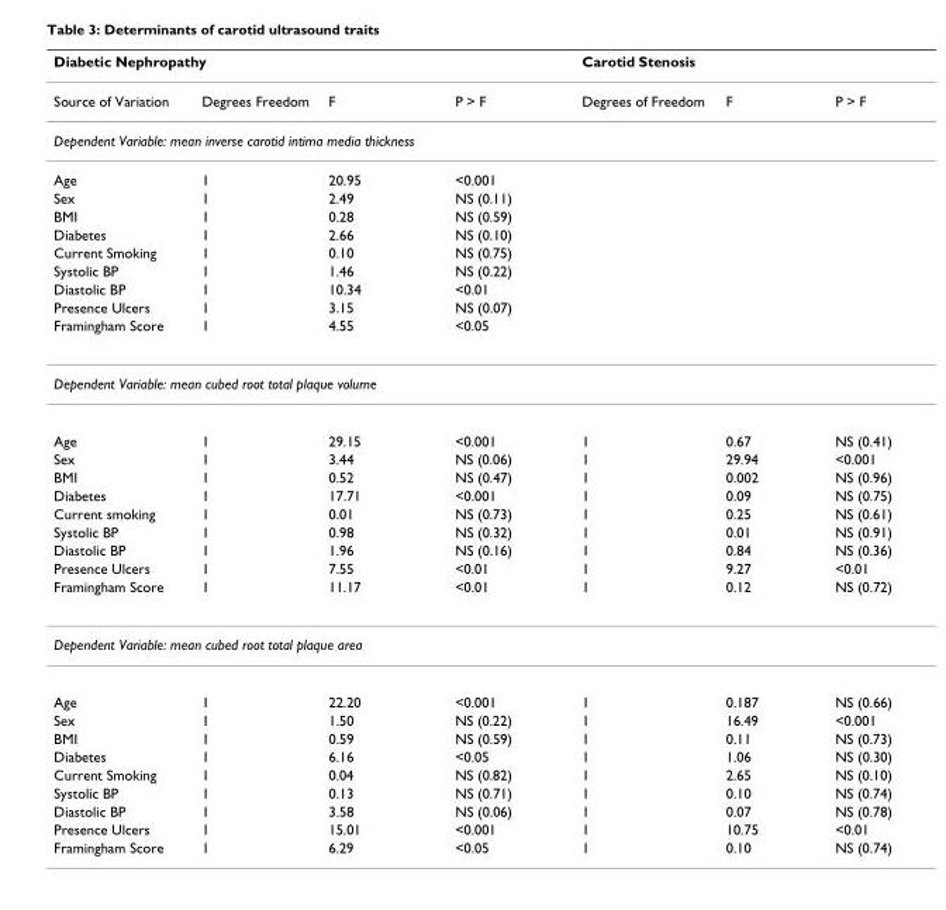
<table><thead><tr><td colspan="4">Diabetic Nephropathy</td><td rowspan="2">Carotid Stenosis Degrees of Freedom</td><td rowspan="2">F</td><td rowspan="2">P &gt; F</td></tr><tr><td>Source of Variation</td><td>Degrees Freedom</td><td>F</td><td>P &gt; F</td></tr></thead><tbody><tr><td colspan="7">Dependent Variable: mean inverse carotid intima media thickness</td></tr><tr><td>Age</td><td>1</td><td>20.95</td><td>&lt;0.001</td><td></td><td></td><td></td></tr><tr><td>Sex</td><td>1</td><td>2.49</td><td>NS (0.11)</td><td></td><td></td><td></td></tr><tr><td>BMI</td><td>1</td><td>0.28</td><td>NS (0.59)</td><td></td><td></td><td></td></tr><tr><td>Diabetes</td><td>1</td><td>2.66</td><td>NS (0.10)</td><td></td><td></td><td></td></tr><tr><td>Current Smoking</td><td>1</td><td>0.10</td><td>NS (0.75)</td><td></td><td></td><td></td></tr><tr><td>Systolic BP</td><td>1</td><td>1.46</td><td>NS (0.22)</td><td></td><td></td><td></td></tr><tr><td>Diastolic BP</td><td>1</td><td>10.34</td><td>&lt;0.01</td><td></td><td></td><td></td></tr><tr><td>Presence Ulcers</td><td>1</td><td>3.15</td><td>NS (0.07)</td><td></td><td></td><td></td></tr><tr><td>Framingham Score</td><td>1</td><td>4.55</td><td>&lt;0.05</td><td></td><td></td><td></td></tr><tr><td colspan="7">Dependent Variable: mean cubed root total plaque volume</td></tr><tr><td>Age</td><td>1</td><td>29.15</td><td>&lt;0.001</td><td>1</td><td>0.67</td><td>NS (0.41)</td></tr><tr><td>Sex</td><td>1</td><td>3.44</td><td>NS (0.06)</td><td>1</td><td>29.94</td><td>&lt;0.001</td></tr><tr><td>BMI</td><td>1</td><td>0.52</td><td>NS (0.47)</td><td>1</td><td>0.002</td><td>NS (0.96)</td></tr><tr><td>Diabetes</td><td>1</td><td>17.71</td><td>&lt;0.001</td><td>1</td><td>0.09</td><td>NS (0.75)</td></tr><tr><td>Current smoking</td><td>1</td><td>0.01</td><td>NS (0.73)</td><td>1</td><td>0.25</td><td>NS (0.61)</td></tr><tr><td>Systolic BP</td><td>1</td><td>0.98</td><td>NS (0.32)</td><td>1</td><td>0.01</td><td>NS (0.91)</td></tr><tr><td>Diastolic BP</td><td>1</td><td>1.96</td><td>NS (0.16)</td><td>1</td><td>0.84</td><td>NS (0.36)</td></tr><tr><td>Presence Ulcers</td><td>1</td><td>7.55</td><td>&lt;0.01</td><td>1</td><td>9.27</td><td>&lt;0.01</td></tr><tr><td>Framingham Score</td><td>1</td><td>11.17</td><td>&lt;0.01</td><td>1</td><td>0.12</td><td>NS (0.72)</td></tr><tr><td colspan="7">Dependent Variable: mean cubed root total plaque area</td></tr><tr><td>Age</td><td>1</td><td>22.20</td><td>&lt;0.001</td><td>1</td><td>0.187</td><td>NS (0.66)</td></tr><tr><td>Sex</td><td>1</td><td>1.50</td><td>NS (0.22)</td><td>1</td><td>16.49</td><td>&lt;0.001</td></tr><tr><td>BMI</td><td>1</td><td>0.59</td><td>NS (0.59)</td><td>1</td><td>0.11</td><td>NS (0.73)</td></tr><tr><td>Diabetes</td><td>1</td><td>6.16</td><td>&lt;0.05</td><td>1</td><td>1.06</td><td>NS (0.30)</td></tr><tr><td>Current Smoking</td><td>1</td><td>0.04</td><td>NS (0.82)</td><td>1</td><td>2.65</td><td>NS (0.10)</td></tr><tr><td>Systolic BP</td><td>1</td><td>0.13</td><td>NS (0.71)</td><td>1</td><td>0.10</td><td>NS (0.74)</td></tr><tr><td>Diastolic BP</td><td>1</td><td>3.58</td><td>NS (0.06)</td><td>1</td><td>0.07</td><td>NS (0.78)</td></tr><tr><td>Presence Ulcers</td><td>1</td><td>15.01</td><td>&lt;0.001</td><td>1</td><td>10.75</td><td>&lt;0.01</td></tr><tr><td>Framingham Score</td><td>1</td><td>6.29</td><td>&lt;0.05</td><td>1</td><td>0.10</td><td>NS (0.74)</td></tr></tbody></table>